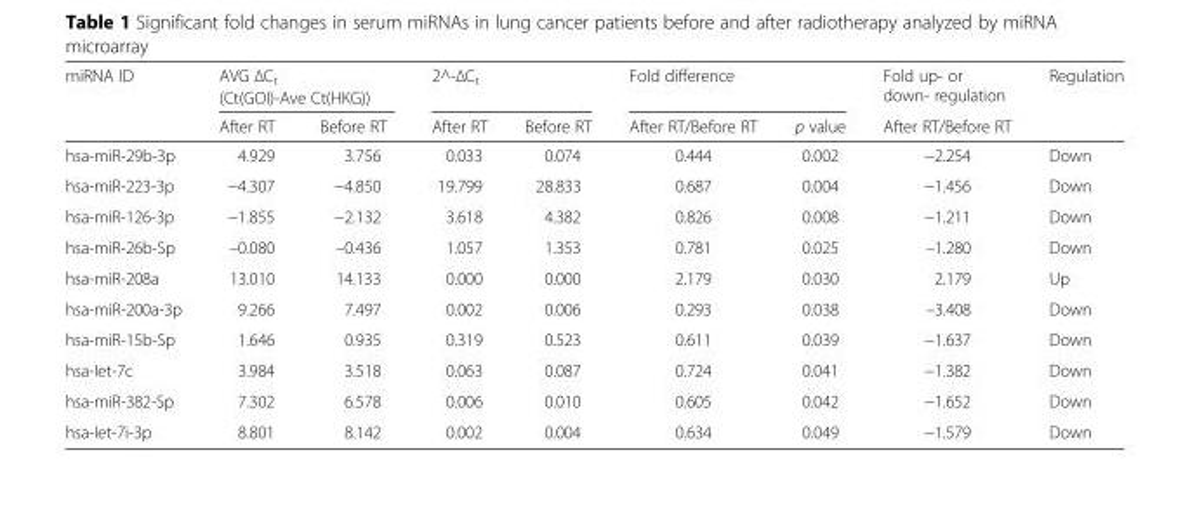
<table><thead><tr><td rowspan="3">miRNA ID</td><td rowspan="2" colspan="2">AVG ΔCt (Ct(GOI)-Ave Ct(HKG))</td><td rowspan="2" colspan="2">2^-ΔCt</td><td rowspan="2" colspan="2">Fold difference</td><td rowspan="3">Fold up- or down- regulation After RT/Before RT</td><td rowspan="3">Regulation</td></tr><tr></tr><tr><td>After RT</td><td>Before RT</td><td>After RT</td><td>Before RT</td><td>After RT/Before RT</td><td>p value</td></tr></thead><tbody><tr><td>hsa-miR-29b-3p</td><td>4.929</td><td>3.756</td><td>0.033</td><td>0.074</td><td>0.444</td><td>0.002</td><td>−2.254</td><td>Down</td></tr><tr><td>hsa-miR-223-3p</td><td>−4.307</td><td>−4.850</td><td>19.799</td><td>28.833</td><td>0.687</td><td>0.004</td><td>−1.456</td><td>Down</td></tr><tr><td>hsa-miR-126-3p</td><td>−1.855</td><td>−2.132</td><td>3.618</td><td>4.382</td><td>0.826</td><td>0.008</td><td>−1.211</td><td>Down</td></tr><tr><td>hsa-miR-26b-Sp</td><td>–0.080</td><td>–0.436</td><td>1.057</td><td>1.353</td><td>0.781</td><td>0.025</td><td>–1.280</td><td>Down</td></tr><tr><td>hsa-miR-208a</td><td>13.010</td><td>14.133</td><td>0.000</td><td>0.000</td><td>2.179</td><td>0.030</td><td>2.179</td><td>Up</td></tr><tr><td>hsa-miR-200a-3p</td><td>9.266</td><td>7.497</td><td>0.002</td><td>0.006</td><td>0.293</td><td>0.038</td><td>–3.408</td><td>Down</td></tr><tr><td>hsa-miR-15b-Sp</td><td>1.646</td><td>0.935</td><td>0.319</td><td>0.523</td><td>0.611</td><td>0.039</td><td>−1.637</td><td>Down</td></tr><tr><td>hsa-Iet-7c</td><td>3.984</td><td>3.518</td><td>0.063</td><td>0.087</td><td>0.724</td><td>0.041</td><td>−1.382</td><td>Down</td></tr><tr><td>hsa-miR-382-Sp</td><td>7.302</td><td>6.578</td><td>0.006</td><td>0.010</td><td>0.605</td><td>0.042</td><td>−1.652</td><td>Down</td></tr><tr><td>hsa-Iet-7i-3p</td><td>8.801</td><td>8.142</td><td>0.002</td><td>0.004</td><td>0.634</td><td>0.049</td><td>−1.579</td><td>Down</td></tr></tbody></table>